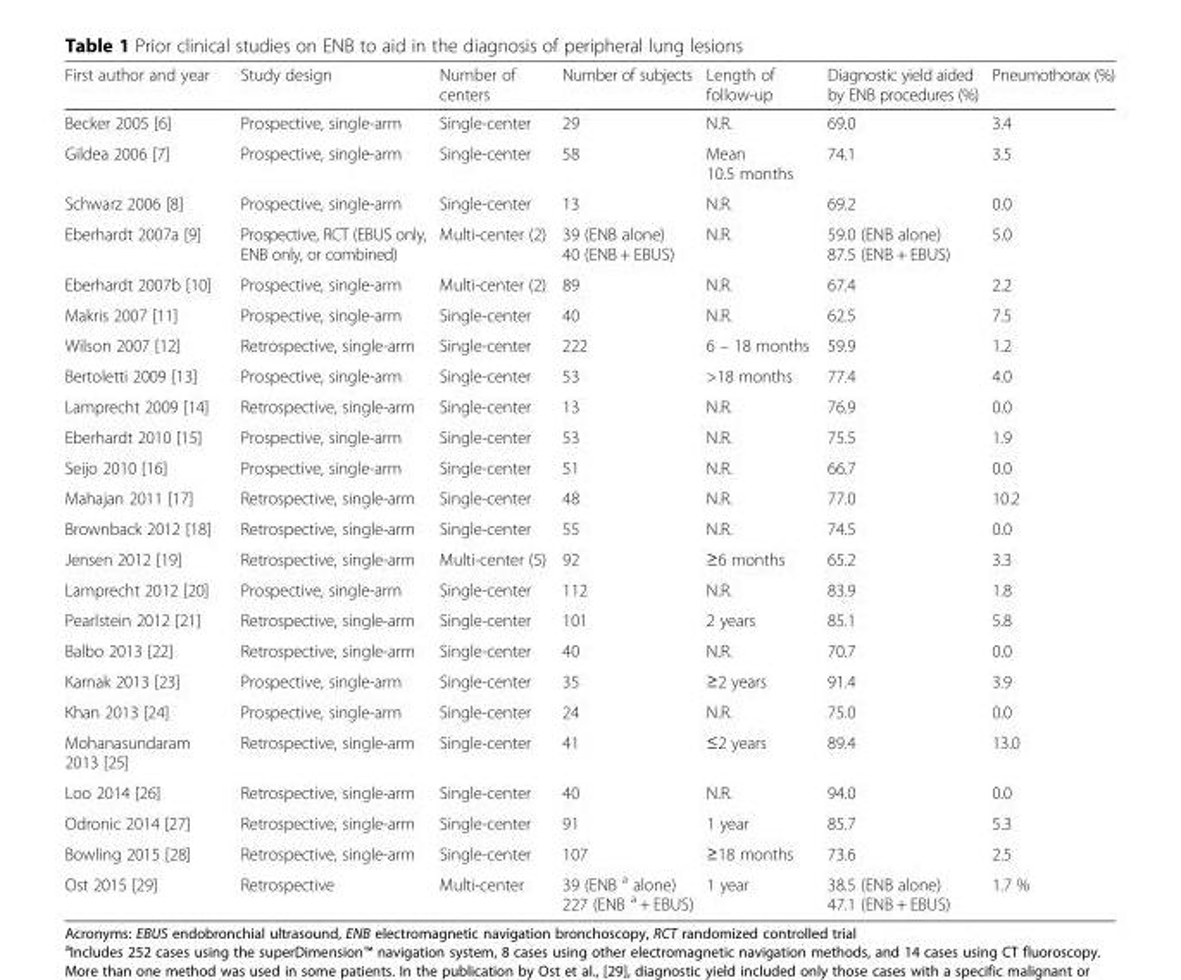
<table><thead><tr><td>First author and year</td><td>Study design</td><td>Number of centers</td><td>Number of subjects</td><td>Length of follow-up</td><td>Diagnostic yield aided by ENB procedures (%)</td><td>Pneumothorax (%)</td></tr></thead><tbody><tr><td>Becker 2005 [6]</td><td>Prospective, single-arm</td><td>Single-center</td><td>29</td><td>N.R.</td><td>69.0</td><td>3.4</td></tr><tr><td>Gildea 2006 [7]</td><td>Prospective, single-arm</td><td>Single-center</td><td>58</td><td>Mean 10.5 months</td><td>74.1</td><td>3.5</td></tr><tr><td>Schwarz 2006 [8]</td><td>Prospective, single-arm</td><td>Single-center</td><td>13</td><td>N.R.</td><td>69.2</td><td>0.0</td></tr><tr><td>Eberhardt 2007a [9]</td><td>Prospective, RCT (EBUS only, ENB only, or combined)</td><td>Multi-center (2)</td><td>39 (ENB alone) 40 (ENB + EBUS)</td><td>N.R.</td><td>59.0 (ENB alone) 87.5 (ENB + EBUS)</td><td>5.0</td></tr><tr><td>Eberhardt 2007b [10]</td><td>Prospective, single-arm</td><td>Multi-center (2)</td><td>89</td><td>N.R.</td><td>67.4</td><td>2.2</td></tr><tr><td>Makris 2007 [11]</td><td>Prospective, single-arm</td><td>Single-center</td><td>40</td><td>N.R.</td><td>62.5</td><td>7.5</td></tr><tr><td>Wilson 2007 [12]</td><td>Retrospective, single-arm</td><td>Single-center</td><td>222</td><td>6 – 18 months</td><td>59.9</td><td>1.2</td></tr><tr><td>Bertoletti 2009 [13]</td><td>Prospective, single-arm</td><td>Single-center</td><td>53</td><td>&gt;18 months</td><td>77.4</td><td>4.0</td></tr><tr><td>Lamprecht 2009 [14]</td><td>Retrospective, single-arm</td><td>Single-center</td><td>13</td><td>N.R.</td><td>76.9</td><td>0.0</td></tr><tr><td>Eberhardt 2010 [15]</td><td>Prospective, single-arm</td><td>Single-center</td><td>53</td><td>N.R.</td><td>75.5</td><td>1.9</td></tr><tr><td>Seijo 2010 [16]</td><td>Prospective, single-arm</td><td>Single-center</td><td>51</td><td>N.R.</td><td>66.7</td><td>0.0</td></tr><tr><td>Mahajan 2011 [17]</td><td>Retrospective, single-arm</td><td>Single-center</td><td>48</td><td>N.R.</td><td>77.0</td><td>10.2</td></tr><tr><td>Brownback 2012 [18]</td><td>Retrospective, single-arm</td><td>Single-center</td><td>55</td><td>N.R.</td><td>74.5</td><td>0.0</td></tr><tr><td>Jensen 2012 [19]</td><td>Retrospective, single-arm</td><td>Multi-center (5)</td><td>92</td><td>≥6 months</td><td>65.2</td><td>3.3</td></tr><tr><td>Lamprecht 2012 [20]</td><td>Prospective, single-arm</td><td>Single-center</td><td>112</td><td>N.R.</td><td>83.9</td><td>1.8</td></tr><tr><td>Pearlstein 2012 [21]</td><td>Retrospective, single-arm</td><td>Single-center</td><td>101</td><td>2 years</td><td>85.1</td><td>5.8</td></tr><tr><td>Balbo 2013 [22]</td><td>Retrospective, single-arm</td><td>Single-center</td><td>40</td><td>N.R.</td><td>70.7</td><td>0.0</td></tr><tr><td>Karnak 2013 [23]</td><td>Prospective, single-arm</td><td>Single-center</td><td>35</td><td>≥2 years</td><td>91.4</td><td>3.9</td></tr><tr><td>Khan 2013 [24]</td><td>Prospective, single-arm</td><td>Single-center</td><td>24</td><td>N.R.</td><td>75.0</td><td>0.0</td></tr><tr><td>Mohanasundaram 2013 [25]</td><td>Retrospective, single-arm</td><td>Single-center</td><td>41</td><td>≤2 years</td><td>89.4</td><td>13.0</td></tr><tr><td>Loo 2014 [26]</td><td>Retrospective, single-arm</td><td>Single-center</td><td>40</td><td>N.R.</td><td>94.0</td><td>0.0</td></tr><tr><td>Odronic 2014 [27]</td><td>Retrospective, single-arm</td><td>Single-center</td><td>91</td><td>1 year</td><td>85.7</td><td>5.3</td></tr><tr><td>Bowling 2015 [28]</td><td>Retrospective, single-arm</td><td>Single-center</td><td>107</td><td>≥18 months</td><td>73.6</td><td>2.5</td></tr><tr><td>Ost 2015 [29]</td><td>Retrospective</td><td>Multi-center</td><td>39 (ENB <sup>a</sup> alone) 227 (ENB <sup>a</sup> + EBUS)</td><td>1 year</td><td>38.5 (ENB alone) 47.1 (ENB + EBUS)</td><td>1.7 %</td></tr></tbody></table>